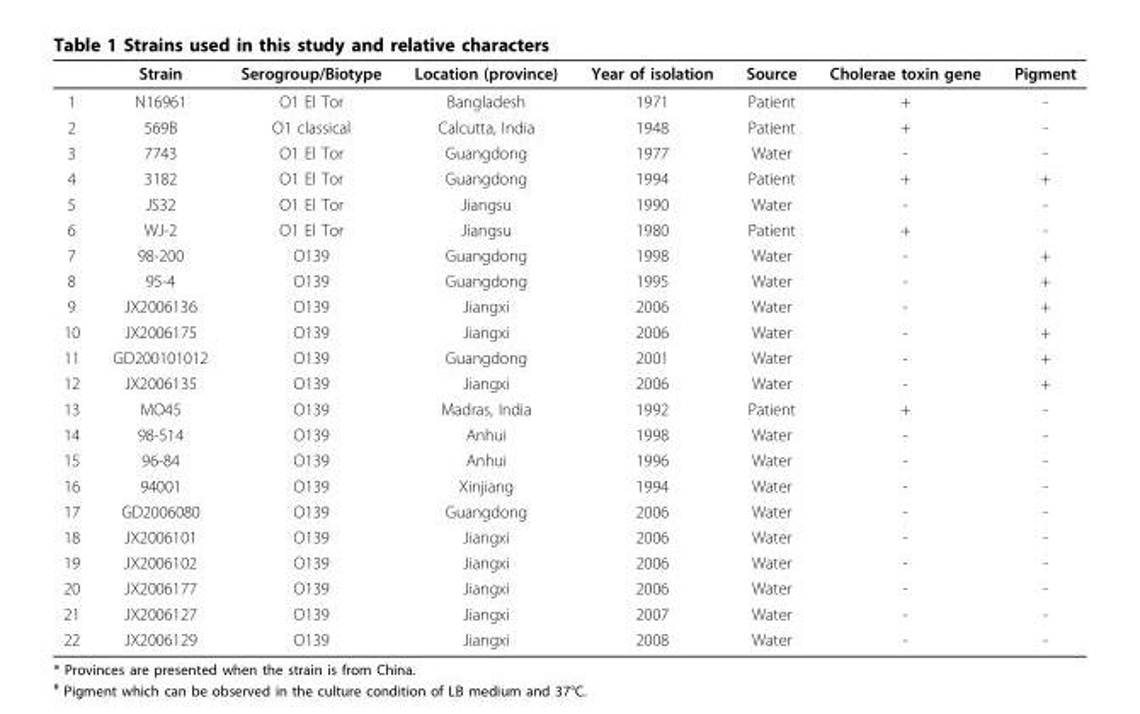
<table><thead><tr><td></td><td>Strain</td><td>Serogroup/Biotype</td><td>Location (province)</td><td>Year of isolation</td><td>Source</td><td>Cholerae toxin gene</td><td>Pigment</td></tr></thead><tbody><tr><td>1</td><td>N16961</td><td>O1 El Tor</td><td>Bangladesh</td><td>1971</td><td>Patient</td><td>+</td><td>-</td></tr><tr><td>2</td><td>569B</td><td>O1 classical</td><td>Calcutta, India</td><td>1948</td><td>Patient</td><td>+</td><td>-</td></tr><tr><td>3</td><td>7743</td><td>O1 El Tor</td><td>Guangdong</td><td>1977</td><td>Water</td><td>-</td><td>-</td></tr><tr><td>4</td><td>3182</td><td>O1 El Tor</td><td>Guangdong</td><td>1994</td><td>Patient</td><td>+</td><td>+</td></tr><tr><td>5</td><td>JS32</td><td>O1 El Tor</td><td>Jiangsu</td><td>1990</td><td>Water</td><td>-</td><td>-</td></tr><tr><td>6</td><td>WJ-2</td><td>O1 El Tor</td><td>Jiangsu</td><td>1980</td><td>Patient</td><td>+</td><td>-</td></tr><tr><td>7</td><td>98-200</td><td>O139</td><td>Guangdong</td><td>1998</td><td>Water</td><td>-</td><td>+</td></tr><tr><td>8</td><td>95-4</td><td>O139</td><td>Guangdong</td><td>1995</td><td>Water</td><td>-</td><td>+</td></tr><tr><td>9</td><td>JX2006136</td><td>O139</td><td>Jiangxi</td><td>2006</td><td>Water</td><td>-</td><td>+</td></tr><tr><td>10</td><td>JX2006175</td><td>O139</td><td>Jiangxi</td><td>2006</td><td>Water</td><td>-</td><td>+</td></tr><tr><td>11</td><td>GD200101012</td><td>O139</td><td>Guangdong</td><td>2001</td><td>Water</td><td>-</td><td>+</td></tr><tr><td>12</td><td>JX2006135</td><td>O139</td><td>Jiangxi</td><td>2006</td><td>Water</td><td>-</td><td>+</td></tr><tr><td>13</td><td>MO45</td><td>O139</td><td>Madras, India</td><td>1992</td><td>Patient</td><td>+</td><td>-</td></tr><tr><td>14</td><td>98-514</td><td>O139</td><td>Anhui</td><td>1998</td><td>Water</td><td>-</td><td>-</td></tr><tr><td>15</td><td>96-84</td><td>O139</td><td>Anhui</td><td>1996</td><td>Water</td><td>-</td><td>-</td></tr><tr><td>16</td><td>94001</td><td>O139</td><td>Xinjiang</td><td>1994</td><td>Water</td><td>-</td><td>-</td></tr><tr><td>17</td><td>GD2006080</td><td>O139</td><td>Guangdong</td><td>2006</td><td>Water</td><td>-</td><td>-</td></tr><tr><td>18</td><td>JX2006101</td><td>O139</td><td>Jiangxi</td><td>2006</td><td>Water</td><td>-</td><td>-</td></tr><tr><td>19</td><td>JX2006102</td><td>O139</td><td>Jiangxi</td><td>2006</td><td>Water</td><td>-</td><td>-</td></tr><tr><td>20</td><td>JX2006177</td><td>O139</td><td>Jiangxi</td><td>2006</td><td>Water</td><td>-</td><td>-</td></tr><tr><td>21</td><td>JX2006127</td><td>O139</td><td>Jiangxi</td><td>2007</td><td>Water</td><td>-</td><td>-</td></tr><tr><td>22</td><td>JX2006129</td><td>O139</td><td>Jiangxi</td><td>2008</td><td>Water</td><td>-</td><td>-</td></tr></tbody></table>